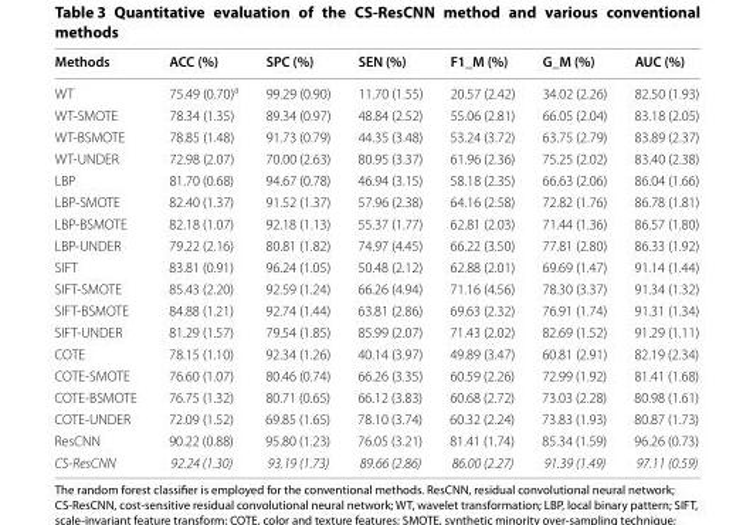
<table><thead><tr><td>Methods</td><td>ACC (%)</td><td>SPC (%)</td><td>SEN (%)</td><td>F1_M (%)</td><td>G_M (%)</td><td>AUC (%)</td></tr></thead><tbody><tr><td>WT</td><td>75.49 (0.70)<sup>a</sup></td><td>99.29 (0.90)</td><td>11.70 (1.55)</td><td>20.57 (2.42)</td><td>34.02 (2.26)</td><td>82.50 (1.93)</td></tr><tr><td>WT-SMOTE</td><td>78.34 (1.35)</td><td>89.34 (0.97)</td><td>48.84 (2.52)</td><td>55.06 (2.81)</td><td>66.05 (2.04)</td><td>83.18 (2.05)</td></tr><tr><td>WT-BSMOTE</td><td>78.85 (1.48)</td><td>91.73 (0.79)</td><td>44.35 (3.48)</td><td>53.24 (3.72)</td><td>63.75 (2.79)</td><td>83.89 (2.37)</td></tr><tr><td>WT-UNDER</td><td>72.98 (2.07)</td><td>70.00 (2.63)</td><td>80.95 (3.37)</td><td>61.96 (2.36)</td><td>75.25 (2.02)</td><td>83.40 (2.38)</td></tr><tr><td>LBP</td><td>81.70 (0.68)</td><td>94.67 (0.78)</td><td>46.94 (3.15)</td><td>58.18 (2.35)</td><td>66.63 (2.06)</td><td>86.04 (1.66)</td></tr><tr><td>LBP-SMOTE</td><td>82.40 (1.37)</td><td>91.52 (1.37)</td><td>57.96 (2.38)</td><td>64.16 (2.58)</td><td>72.82 (1.76)</td><td>86.78 (1.81)</td></tr><tr><td>LBP-BSMOTE</td><td>82.18 (1.07)</td><td>92.18 (1.13)</td><td>55.37 (1.77)</td><td>62.81 (2.03)</td><td>71.44 (1.36)</td><td>86.57 (1.80)</td></tr><tr><td>LBP-UNDER</td><td>79.22 (2.16)</td><td>80.81 (1.82)</td><td>74.97 (4.45)</td><td>66.22 (3.50)</td><td>77.81 (2.80)</td><td>86.33 (1.92)</td></tr><tr><td>SIFT</td><td>83.81 (0.91)</td><td>96.24 (1.05)</td><td>50.48 (2.12)</td><td>62.88 (2.01)</td><td>69.69 (1.47)</td><td>91.14 (1.44)</td></tr><tr><td>SIFT-SMOTE</td><td>85.43 (2.20)</td><td>92.59 (1.24)</td><td>66.26 (4.94)</td><td>71.16 (4.56)</td><td>78.30 (3.37)</td><td>91.34 (1.32)</td></tr><tr><td>SIFT-BSMOTE</td><td>84.88 (1.21)</td><td>92.74 (1.44)</td><td>63.81 (2.86)</td><td>69.63 (2.32)</td><td>76.91 (1.74)</td><td>91.31 (1.34)</td></tr><tr><td>SIFT-UNDER</td><td>81.29 (1.57)</td><td>79.54 (1.85)</td><td>85.99 (2.07)</td><td>71.43 (2.02)</td><td>82.69 (1.52)</td><td>91.29 (1.11)</td></tr><tr><td>COTE</td><td>78.15 (1.10)</td><td>92.34 (1.26)</td><td>40.14 (3.97)</td><td>49.89 (3.47)</td><td>60.81 (2.91)</td><td>82.19 (2.34)</td></tr><tr><td>COTE-SMOTE</td><td>76.60 (1.07)</td><td>80.46 (0.74)</td><td>66.26 (3.35)</td><td>60.59 (2.26)</td><td>72.99 (1.92)</td><td>81.41 (1.68)</td></tr><tr><td>COTE-BSMOTE</td><td>76.75 (1.32)</td><td>80.71 (0.65)</td><td>66.12 (3.83)</td><td>60.68 (2.72)</td><td>73.03 (2.28)</td><td>80.98 (1.61)</td></tr><tr><td>COTE-UNDER</td><td>72.09 (1.52)</td><td>69.85 (1.65)</td><td>78.10 (3.74)</td><td>60.32 (2.24)</td><td>73.83 (1.93)</td><td>80.87 (1.73)</td></tr><tr><td>ResCNN</td><td>90.22 (0.88)</td><td>95.80 (1.23)</td><td>76.05 (3.21)</td><td>81.41 (1.74)</td><td>85.34 (1.59)</td><td>96.26 (0.73)</td></tr><tr><td>CS-ResCNN</td><td>92.24 (1.30)</td><td>93.19 (1.73)</td><td>89.66 (2.86)</td><td>86.00 (2.27)</td><td>91.39 (1.49)</td><td>97.11 (0.59)</td></tr></tbody></table>